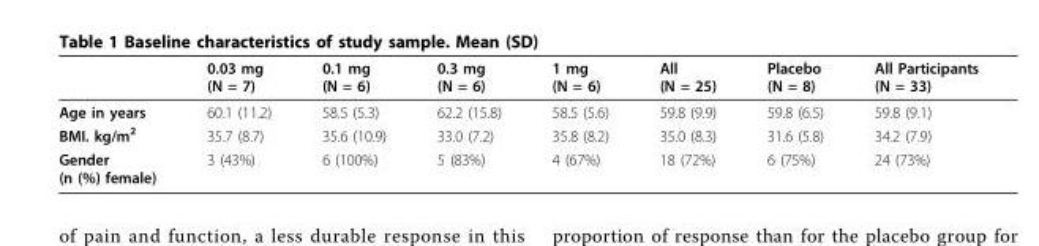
<table><thead><tr><td></td><td>0.03 mg (N = 7)</td><td>0.1 mg (N = 6)</td><td>0.3 mg (N = 6)</td><td>1 mg (N = 6)</td><td>All (N = 25)</td><td>Placebo (N = 8)</td><td>All Participants (N = 33)</td></tr></thead><tbody><tr><td>Age in years</td><td>60.1 (11.2)</td><td>58.5 (5.3)</td><td>62.2 (15.8)</td><td>58.5 (5.6)</td><td>59.8 (9.9)</td><td>59.8 (6.5)</td><td>59.8 (9.1)</td></tr><tr><td>BMI. kg/m<sup>2</sup></td><td>35.7 (8.7)</td><td>35.6 (10.9)</td><td>33.0 (7.2)</td><td>35.8 (8.2)</td><td>35.0 (8.3)</td><td>31.6 (5.8)</td><td>34.2 (7.9)</td></tr><tr><td>Gender (n (%) female)</td><td>3 (43%)</td><td>6 (100%)</td><td>5 (83%)</td><td>4 (67%)</td><td>18 (72%)</td><td>6 (75%)</td><td>24 (73%)</td></tr></tbody></table>